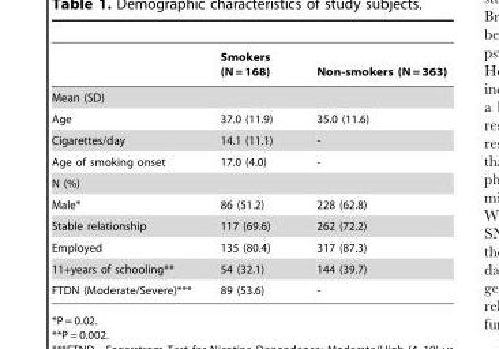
<table><thead><tr><td></td><td>Smokers (N = 168)</td><td>Non-smokers (N = 363)</td></tr></thead><tbody><tr><td colspan="3">Mean (SD)</td></tr><tr><td>Age</td><td>37.0 (11.9)</td><td>35.0 (11.6)</td></tr><tr><td>Cigarettes/day</td><td>14.1 (11.1)</td><td>-</td></tr><tr><td>Age of smoking onset</td><td>17.0 (4.0)</td><td>-</td></tr><tr><td colspan="3">N (%)</td></tr><tr><td>Male*</td><td>86 (51.2)</td><td>228 (62.8)</td></tr><tr><td>Stable relationship</td><td>117 (69.6)</td><td>262 (72.2)</td></tr><tr><td>Employed</td><td>135 (80.4)</td><td>317 (87.3)</td></tr><tr><td>11+years of schooling**</td><td>54 (32.1)</td><td>144 (39.7)</td></tr><tr><td>FTDN (Moderate/Severe)***</td><td>89 (53.6)</td><td>-</td></tr></tbody></table>